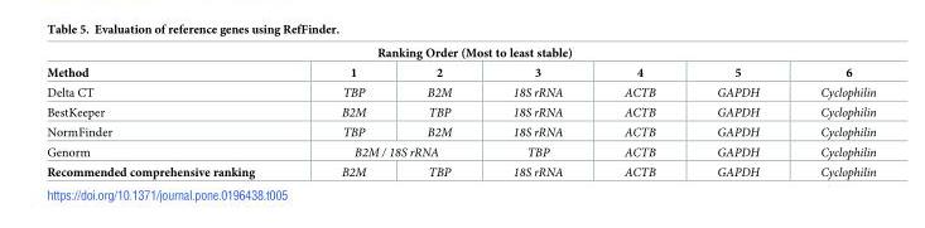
<table><thead><tr><td colspan="7">Ranking Order (Most to least stable)</td></tr><tr><td>Method</td><td>1</td><td>2</td><td>3</td><td>4</td><td>5</td><td>6</td></tr></thead><tbody><tr><td>Delta CT</td><td>TBP</td><td>B2M</td><td>18S rRNA</td><td>ACTB</td><td>GAPDH</td><td>Cyclophilin</td></tr><tr><td>BestKeeper</td><td>B2M</td><td>TBP</td><td>18S rRNA</td><td>ACTB</td><td>GAPDH</td><td>Cyclophilin</td></tr><tr><td>NormFinder</td><td>TBP</td><td>B2M</td><td>18S rRNA</td><td>ACTB</td><td>GAPDH</td><td>Cyclophilin</td></tr><tr><td>Genorm</td><td colspan="2">B2M / 18S rRNA</td><td>TBP</td><td>ACTB</td><td>GAPDH</td><td>Cyclophilin</td></tr><tr><td>Recommended comprehensive ranking</td><td>B2M</td><td>TBP</td><td>18S rRNA</td><td>ACTB</td><td>GAPDH</td><td>Cyclophilin</td></tr></tbody></table>